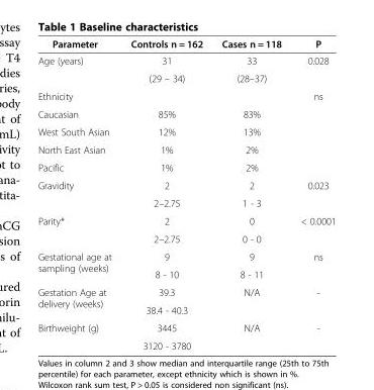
<table><thead><tr><td>Parameter</td><td>Controls n = 162</td><td>Cases n = 118</td><td>P</td></tr></thead><tbody><tr><td rowspan="2">Age (years)</td><td>31</td><td>33</td><td rowspan="2">0.028</td></tr><tr><td>(29 – 34)</td><td>(28–37)</td></tr><tr><td colspan="3">Ethnicity</td><td rowspan="5">ns</td></tr><tr><td>Caucasian</td><td>85%</td><td>83%</td></tr><tr><td>West South Asian</td><td>12%</td><td>13%</td></tr><tr><td>North East Asian</td><td>1%</td><td>2%</td></tr><tr><td>Pacific</td><td>1%</td><td>2%</td></tr><tr><td rowspan="2">Gravidity</td><td>2</td><td>2</td><td rowspan="2">0.023</td></tr><tr><td>2–2.75</td><td>1 - 3</td></tr><tr><td rowspan="2">Parity*</td><td>2</td><td>0</td><td rowspan="2">&lt; 0.0001</td></tr><tr><td>2–2.75</td><td>0 - 0</td></tr><tr><td rowspan="2">Gestational age at sampling (weeks)</td><td>9</td><td>9</td><td rowspan="2">ns</td></tr><tr><td>8 - 10</td><td>8 - 11</td></tr><tr><td rowspan="2">Gestation Age at delivery (weeks)</td><td>39.3</td><td rowspan="2">N/A</td><td rowspan="2">-</td></tr><tr><td>38.4 - 40.3</td></tr><tr><td rowspan="2">Birthweight (g)</td><td>3445</td><td rowspan="2">N/A</td><td rowspan="2">-</td></tr><tr><td>3120 - 3780</td></tr></tbody></table>